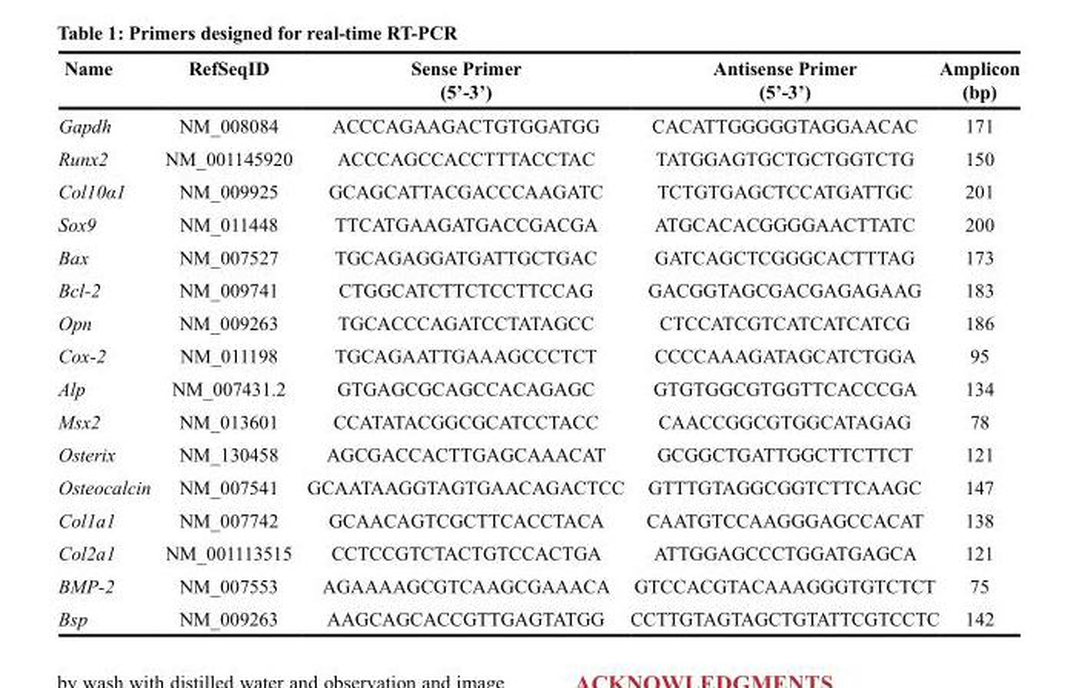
<table><thead><tr><td>Name</td><td>RefSeqID</td><td>Sense Primer (5’-3’)</td><td>Antisense Primer (5’-3’)</td><td>Amplicon (bp)</td></tr></thead><tbody><tr><td>Gapdh</td><td>NM_008084</td><td>ACCCAGAAGACTGTGGATGG</td><td>CACATTGGGGGTAGGAACAC</td><td>171</td></tr><tr><td>Runx2</td><td>NM_001145920</td><td>ACCCAGCCACCTTTACCTAC</td><td>TATGGAGTGCTGCTGGTCTG</td><td>150</td></tr><tr><td>Col10α1</td><td>NM_009925</td><td>GCAGCATTACGACCCAAGATC</td><td>TCTGTGAGCTCCATGATTGC</td><td>201</td></tr><tr><td>Sox9</td><td>NM_011448</td><td>TTCATGAAGATGACCGACGA</td><td>ATGCACACGGGGAACTTATC</td><td>200</td></tr><tr><td>Bax</td><td>NM_007527</td><td>TGCAGAGGATGATTGCTGAC</td><td>GATCAGCTCGGGCACTTTAG</td><td>173</td></tr><tr><td>Bcl-2</td><td>NM_009741</td><td>CTGGCATCTTCTCCTTCCAG</td><td>GACGGTAGCGACGAGAGAAG</td><td>183</td></tr><tr><td>Opn</td><td>NM_009263</td><td>TGCACCCAGATCCTATAGCC</td><td>CTCCATCGTCATCATCATCG</td><td>186</td></tr><tr><td>Cox-2</td><td>NM_011198</td><td>TGCAGAATTGAAAGCCCTCT</td><td>CCCCAAAGATAGCATCTGGA</td><td>95</td></tr><tr><td>Alp</td><td>NM_007431.2</td><td>GTGAGCGCAGCCACAGAGC</td><td>GTGTGGCGTGGTTCACCCGA</td><td>134</td></tr><tr><td>Msx2</td><td>NM_013601</td><td>CCATATACGGCGCATCCTACC</td><td>CAACCGGCGTGGCATAGAG</td><td>78</td></tr><tr><td>Osterix</td><td>NM_130458</td><td>AGCGACCACTTGAGCAAACAT</td><td>GCGGCTGATTGGCTTCTTCT</td><td>121</td></tr><tr><td>Osteocalcin</td><td>NM_007541</td><td>GCAATAAGGTAGTGAACAGACTCC</td><td>GTTTGTAGGCGGTCTTCAAGC</td><td>147</td></tr><tr><td>Col1a1</td><td>NM_007742</td><td>GCAACAGTCGCTTCACCTACA</td><td>CAATGTCCAAGGGAGCCACAT</td><td>138</td></tr><tr><td>Col2a1</td><td>NM_001113515</td><td>CCTCCGTCTACTGTCCACTGA</td><td>ATTGGAGCCCTGGATGAGCA</td><td>121</td></tr><tr><td>BMP-2</td><td>NM_007553</td><td>AGAAAAGCGTCAAGCGAAACA</td><td>GTCCACGTACAAAGGGTGTCTCT</td><td>75</td></tr><tr><td>Bsp</td><td>NM_009263</td><td>AAGCAGCACCGTTGAGTATGG</td><td>CCTTGTAGTAGCTGTATTCGTCCTC</td><td>142</td></tr></tbody></table>